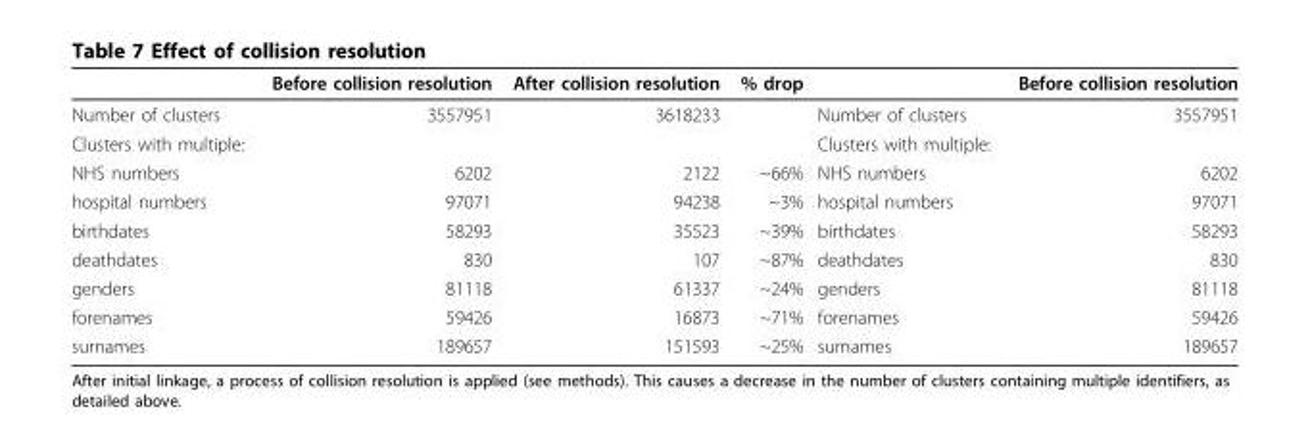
<table><thead><tr><td></td><td>Before collision resolution</td><td>After collision resolution</td><td>% drop</td><td></td><td>Before collision resolution</td></tr></thead><tbody><tr><td>Number of clusters</td><td>3557951</td><td>3618233</td><td></td><td>Number of clusters</td><td>3557951</td></tr><tr><td>Clusters with multiple:</td><td></td><td></td><td></td><td>Clusters with multiple:</td><td></td></tr><tr><td>NHS numbers</td><td>6202</td><td>2122</td><td>~66%</td><td>NHS numbers</td><td>6202</td></tr><tr><td>hospital numbers</td><td>97071</td><td>94238</td><td>~3%</td><td>hospital numbers</td><td>97071</td></tr><tr><td>birthdates</td><td>58293</td><td>35523</td><td>~39%</td><td>birthdates</td><td>58293</td></tr><tr><td>deathdates</td><td>830</td><td>107</td><td>~87%</td><td>deathdates</td><td>830</td></tr><tr><td>genders</td><td>81118</td><td>61337</td><td>~24%</td><td>genders</td><td>81118</td></tr><tr><td>forenames</td><td>59426</td><td>16873</td><td>~71%</td><td>forenames</td><td>59426</td></tr><tr><td>surnames</td><td>189657</td><td>151593</td><td>~25%</td><td>surnames</td><td>189657</td></tr></tbody></table>